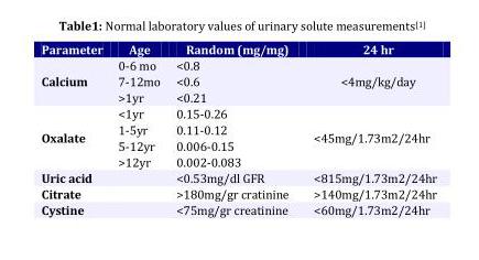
<table><tbody><tr><td>Parameter</td><td>Age</td><td>Random (mg/mg)</td><td>24 hr</td></tr><tr><td rowspan="3">Calcium</td><td>0-6 mo</td><td>&lt;0.8</td><td rowspan="3">&lt;4mg/kg/day</td></tr><tr><td>7-12mo</td><td>&lt;0.6</td></tr><tr><td>&gt;1yr</td><td>&lt;0.21</td></tr><tr><td rowspan="4">Oxalate</td><td>&lt;1yr</td><td>0.15-0.26</td><td rowspan="4">&lt;45mg/1.73m2/24hr</td></tr><tr><td>1-5yr</td><td>0.11-0.12</td></tr><tr><td>5-12yr</td><td>0.006-0.15</td></tr><tr><td>&gt;12yr</td><td>0.002-0.083</td></tr><tr><td>Uric acid</td><td></td><td>&lt;0.53mg/dl GFR</td><td>&lt;815mg/1.73m2/24hr</td></tr><tr><td>Citrate</td><td></td><td>&gt;180mg/gr cratinine</td><td>&gt;140mg/1.73m2/24hr</td></tr><tr><td>Cystine</td><td></td><td>&lt;75mg/gr creatinine</td><td>&lt;60mg/1.73m2/24hr</td></tr></tbody></table>